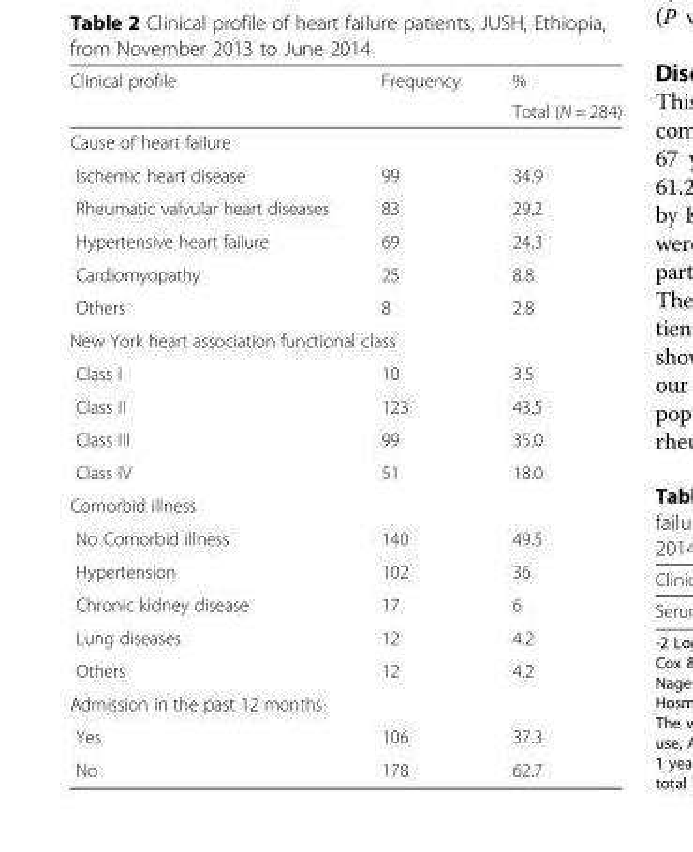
<table><thead><tr><td rowspan="2">Clinical profile</td><td rowspan="2">Frequency</td><td rowspan="2">% Total (N = 284)</td></tr><tr></tr></thead><tbody><tr><td colspan="3">Cause of heart failure</td></tr><tr><td>Ischemic heart disease</td><td>99</td><td>34.9</td></tr><tr><td>Rheumatic valvular heart diseases</td><td>83</td><td>29.2</td></tr><tr><td>Hypertensive heart failure</td><td>69</td><td>24.3</td></tr><tr><td>Cardiomyopathy</td><td>25</td><td>8.8</td></tr><tr><td>Others</td><td>8</td><td>2.8</td></tr><tr><td colspan="3">New York heart association functional class</td></tr><tr><td>Class I</td><td>10</td><td>3.5</td></tr><tr><td>Class II</td><td>123</td><td>43.5</td></tr><tr><td>Class III</td><td>99</td><td>35.0</td></tr><tr><td>Class IV</td><td>51</td><td>18.0</td></tr><tr><td colspan="3">Comorbid illness</td></tr><tr><td>No Comorbid illness</td><td>140</td><td>49.5</td></tr><tr><td>Hypertension</td><td>102</td><td>36</td></tr><tr><td>Chronic kidney disease</td><td>17</td><td>6</td></tr><tr><td>Lung diseases</td><td>12</td><td>4.2</td></tr><tr><td>Others</td><td>12</td><td>4.2</td></tr><tr><td colspan="3">Admission in the past 12 months</td></tr><tr><td>Yes</td><td>106</td><td>37.3</td></tr><tr><td>No</td><td>178</td><td>62.7</td></tr></tbody></table>